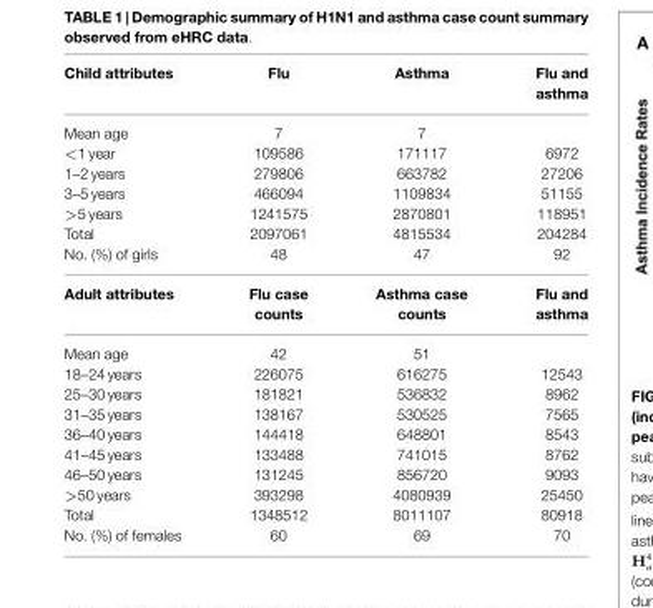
<table><thead><tr><td>Child attributes</td><td>Flu</td><td>Asthma</td><td>Flu and asthma</td></tr></thead><tbody><tr><td>Mean age</td><td>7</td><td>7</td><td></td></tr><tr><td>&lt;1 year</td><td>109586</td><td>171117</td><td>6972</td></tr><tr><td>1–2 years</td><td>279806</td><td>663782</td><td>27206</td></tr><tr><td>3–5 years</td><td>466094</td><td>1109834</td><td>51155</td></tr><tr><td>&gt;5 years</td><td>1241575</td><td>2870801</td><td>118951</td></tr><tr><td>Total</td><td>2097061</td><td>4815534</td><td>204284</td></tr><tr><td>No. (%) of girls</td><td>48</td><td>47</td><td>92</td></tr><tr><td>Adult attributes</td><td>Flu case counts</td><td>Asthma case counts</td><td>Flu and asthma</td></tr><tr><td>Mean age</td><td>42</td><td>51</td><td></td></tr><tr><td>18–24 years</td><td>226075</td><td>616275</td><td>12543</td></tr><tr><td>25–30 years</td><td>181821</td><td>536832</td><td>8962</td></tr><tr><td>31–35 years</td><td>138167</td><td>530525</td><td>7565</td></tr><tr><td>36–40 years</td><td>144418</td><td>648801</td><td>8543</td></tr><tr><td>41–45 years</td><td>133488</td><td>741015</td><td>8762</td></tr><tr><td>46–50 years</td><td>131245</td><td>856720</td><td>9093</td></tr><tr><td>&gt;50 years</td><td>393298</td><td>4080939</td><td>25450</td></tr><tr><td>Total</td><td>1348512</td><td>8011107</td><td>80918</td></tr><tr><td>No. (%) of females</td><td>60</td><td>69</td><td>70</td></tr></tbody></table>